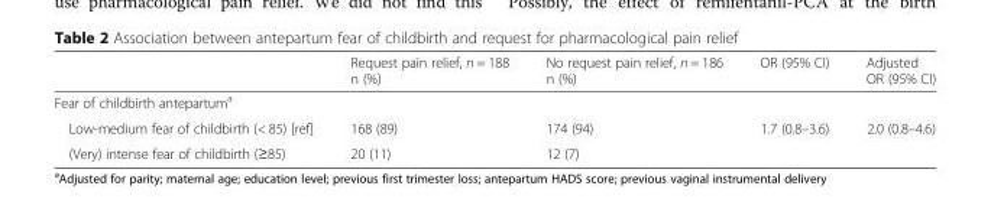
<table><thead><tr><td></td><td>Request pain relief, n = 188 n (%)</td><td>No request pain relief, n = 186 n (%)</td><td>OR (95% CI)</td><td>Adjusted OR (95% CI)</td></tr></thead><tbody><tr><td colspan="5">Fear of childbirth antepartum<sup>a</sup></td></tr><tr><td>Low-medium fear of childbirth (&lt; 85) [ref]</td><td>168 (89)</td><td>174 (94)</td><td>1.7 (0.8–3.6)</td><td>2.0 (0.8–4.6)</td></tr><tr><td>(Very) intense fear of childbirth (≥85)</td><td>20 (11)</td><td>12 (7)</td><td></td><td></td></tr></tbody></table>